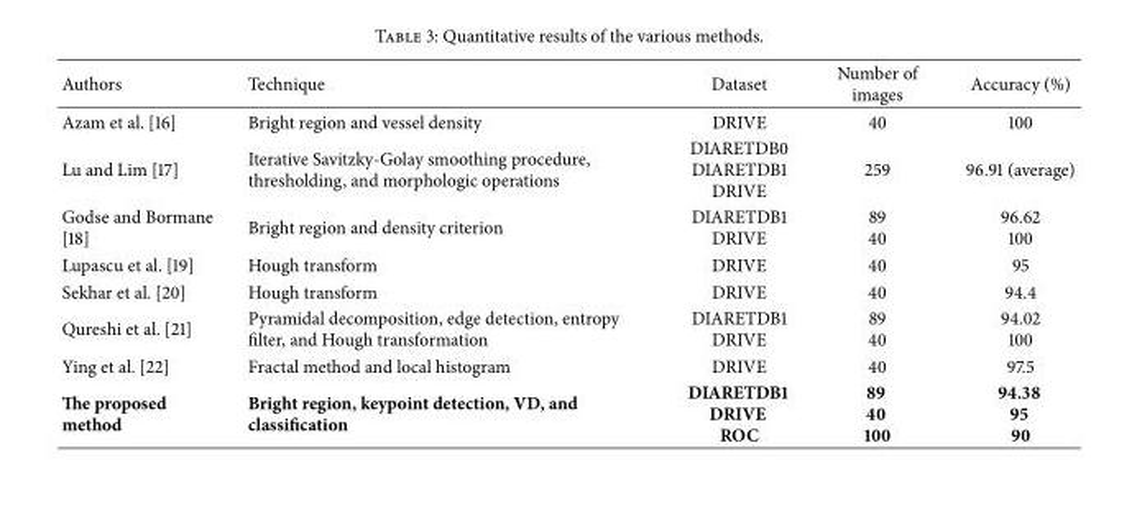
<table><thead><tr><td>Authors</td><td>Technique</td><td>Dataset</td><td>Number of images</td><td>Accuracy (%)</td></tr></thead><tbody><tr><td>Azam et al. [16]</td><td>Bright region and vessel density</td><td>DRIVE</td><td>40</td><td>100</td></tr><tr><td>Lu and Lim [17]</td><td>Iterative Savitzky-Golay smoothing procedure, thresholding, and morphologic operations</td><td>DIARETDB0 DIARETDB1 DRIVE</td><td>259</td><td>96.91 (average)</td></tr><tr><td>Godse and Bormane [18]</td><td>Bright region and density criterion</td><td>DIARETDB1 DRIVE</td><td>89 40</td><td>96.62 100</td></tr><tr><td>Lupascu et al. [19]</td><td>Hough transform</td><td>DRIVE</td><td>40</td><td>95</td></tr><tr><td>Sekhar et al. [20]</td><td>Hough transform</td><td>DRIVE</td><td>40</td><td>94.4</td></tr><tr><td>Qureshi et al. [21]</td><td>Pyramidal decomposition, edge detection, entropy filter, and Hough transformation</td><td>DIARETDB1 DRIVE</td><td>89 40</td><td>94.02 100</td></tr><tr><td>Ying et al. [22]</td><td>Fractal method and local histogram</td><td>DRIVE</td><td>40</td><td>97.5</td></tr><tr><td>The proposed method</td><td>Bright region, keypoint detection, VD, and classification</td><td>DIARETDB1 DRIVE ROC</td><td>89 40 100</td><td>94.38 95 90</td></tr></tbody></table>